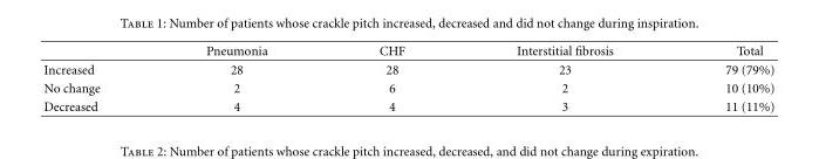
<table><thead><tr><td></td><td>Pneumonia</td><td>CHF</td><td>Interstitial fibrosis</td><td>Total</td></tr></thead><tbody><tr><td>Increased</td><td>28</td><td>28</td><td>23</td><td>79 (79%)</td></tr><tr><td>No change</td><td>2</td><td>6</td><td>2</td><td>10 (10%)</td></tr><tr><td>Decreased</td><td>4</td><td>4</td><td>3</td><td>11 (11%)</td></tr></tbody></table>